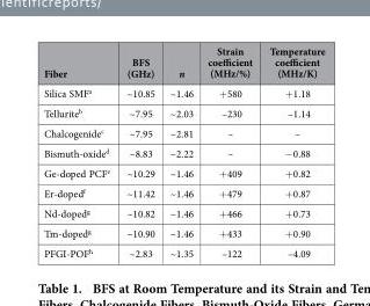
<table><thead><tr><td>Fiber</td><td>BFS (GHz)</td><td>n</td><td>Strain coefficient (MHz/%)</td><td>Temperature coefficient (MHz/K)</td></tr></thead><tbody><tr><td>Silica SMF<sup>a</sup></td><td>~10.85</td><td>~1.46</td><td>+580</td><td>+1.18</td></tr><tr><td>Tellurite<sup>b</sup></td><td>~7.95</td><td>~2.03</td><td>–230</td><td>–1.14</td></tr><tr><td>Chalcogenide<sup>c</sup></td><td>~7.95</td><td>~2.81</td><td>–</td><td>–</td></tr><tr><td>Bismuth-oxide<sup>d</sup></td><td>~8.83</td><td>~2.22</td><td>–</td><td>− 0.88</td></tr><tr><td>Ge-doped PCF<sup>e</sup></td><td>~10.29</td><td>~1.46</td><td>+409</td><td>+0.82</td></tr><tr><td>Er-doped<sup>f</sup></td><td>~11.42</td><td>~1.46</td><td>+479</td><td>+0.87</td></tr><tr><td>Nd-doped<sup>g</sup></td><td>~10.82</td><td>~1.46</td><td>+466</td><td>+0.73</td></tr><tr><td>Tm-doped<sup>g</sup></td><td>~10.90</td><td>~1.46</td><td>+433</td><td>+0.90</td></tr><tr><td>PFGI-POF<sup>h</sup></td><td>~2.83</td><td>~1.35</td><td>–122</td><td>–4.09</td></tr></tbody></table>